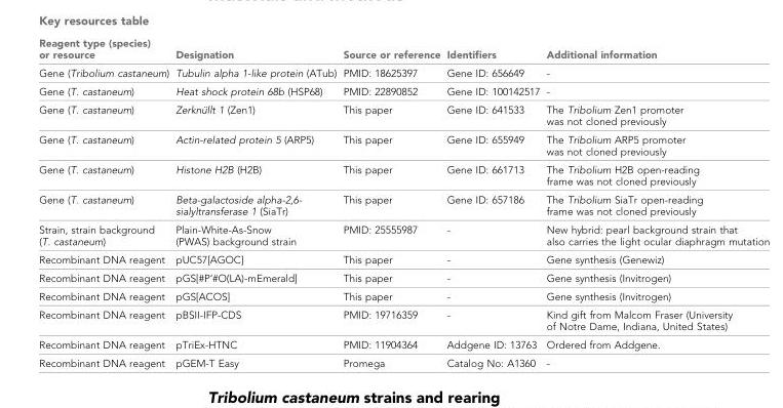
<table><thead><tr><td>Reagent type (species) or resource</td><td>Designation</td><td>Source or reference</td><td>Identifiers</td><td>Additional information</td></tr></thead><tbody><tr><td>Gene (Tribolium castaneum)</td><td>Tubulin alpha 1-like protein (ATub)</td><td>PMID: 18625397</td><td>Gene ID: 656649</td><td>-</td></tr><tr><td>Gene (T. castaneum)</td><td>Heat shock protein 68b (HSP68)</td><td>PMID: 22890852</td><td>Gene ID: 100142517</td><td>-</td></tr><tr><td>Gene (T. castaneum)</td><td>Zerknu¨llt 1 (Zen1)</td><td>This paper</td><td>Gene ID: 641533</td><td>The Tribolium Zen1 promoter was not cloned previously</td></tr><tr><td>Gene (T. castaneum)</td><td>Actin-related protein 5 (ARP5)</td><td>This paper</td><td>Gene ID: 655949</td><td>The Tribolium ARP5 promoter was not cloned previously</td></tr><tr><td>Gene (T. castaneum)</td><td>Histone H2B (H2B)</td><td>This paper</td><td>Gene ID: 661713</td><td>The Tribolium H2B open-reading frame was not cloned previously</td></tr><tr><td>Gene (T. castaneum)</td><td>Beta-galactoside alpha-2,6- sialyltransferase 1 (SiaTr)</td><td>This paper</td><td>Gene ID: 657186</td><td>The Tribolium SiaTr open-reading frame was not cloned previously</td></tr><tr><td>Strain, strain background (T. castaneum)</td><td>Plain-White-As-Snow (PWAS) background strain</td><td>PMID: 25555987</td><td>-</td><td>New hybrid: pearl background strain that also carries the light ocular diaphragm mutation</td></tr><tr><td>Recombinant DNA reagent</td><td>pUC57[AGOC]</td><td>This paper</td><td>-</td><td>Gene synthesis (Genewiz)</td></tr><tr><td>Recombinant DNA reagent</td><td>pGS[#P’#O(LA)-mEmerald]</td><td>This paper</td><td>-</td><td>Gene synthesis (Invitrogen)</td></tr><tr><td>Recombinant DNA reagent</td><td>pGS[ACOS]</td><td>This paper</td><td>-</td><td>Gene synthesis (Invitrogen)</td></tr><tr><td>Recombinant DNA reagent</td><td>pBSII-IFP-CDS</td><td>PMID: 19716359</td><td>-</td><td>Kind gift from Malcom Fraser (University of Notre Dame, Indiana, United States)</td></tr><tr><td>Recombinant DNA reagent</td><td>pTriEx-HTNC</td><td>PMID: 11904364</td><td>Addgene ID: 13763</td><td>Ordered from Addgene.</td></tr><tr><td>Recombinant DNA reagent</td><td>pGEM-T Easy</td><td>Promega</td><td>Catalog No: A1360</td><td>-</td></tr></tbody></table>